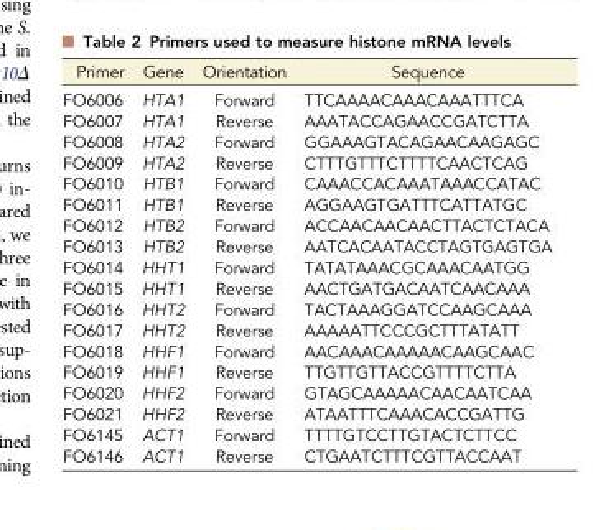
<table><thead><tr><td>Primer</td><td>Gene</td><td>Orientation</td><td>Sequence</td></tr></thead><tbody><tr><td>FO6006</td><td>HTA1</td><td>Forward</td><td>TTCAAAACAAACAAATTTCA</td></tr><tr><td>FO6007</td><td>HTA1</td><td>Reverse</td><td>AAATACCAGAACCGATCTTA</td></tr><tr><td>FO6008</td><td>HTA2</td><td>Forward</td><td>GGAAAGTACAGAACAAGAGC</td></tr><tr><td>FO6009</td><td>HTA2</td><td>Reverse</td><td>CTTTGTTTCTTTTCAACTCAG</td></tr><tr><td>FO6010</td><td>HTB1</td><td>Forward</td><td>CAAACCACAAATAAACCATAC</td></tr><tr><td>FO6011</td><td>HTB1</td><td>Reverse</td><td>AGGAAGTGATTTCATTATGC</td></tr><tr><td>FO6012</td><td>HTB2</td><td>Forward</td><td>ACCAACAACAACTTACTCTACA</td></tr><tr><td>FO6013</td><td>HTB2</td><td>Reverse</td><td>AATCACAATACCTAGTGAGTGA</td></tr><tr><td>FO6014</td><td>HHT1</td><td>Forward</td><td>TATATAAACGCAAACAATGG</td></tr><tr><td>FO6015</td><td>HHT1</td><td>Reverse</td><td>AACTGATGACAATCAACAAA</td></tr><tr><td>FO6016</td><td>HHT2</td><td>Forward</td><td>TACTAAAGGATCCAAGCAAA</td></tr><tr><td>FO6017</td><td>HHT2</td><td>Reverse</td><td>AAAAATTCCCGCTTTATATT</td></tr><tr><td>FO6018</td><td>HHF1</td><td>Forward</td><td>AACAAACAAAAACAAGCAAC</td></tr><tr><td>FO6019</td><td>HHF1</td><td>Reverse</td><td>TTGTTGTTACCGTTTTCTTA</td></tr><tr><td>FO6020</td><td>HHF2</td><td>Forward</td><td>GTAGCAAAAACAACAATCAA</td></tr><tr><td>FO6021</td><td>HHF2</td><td>Reverse</td><td>ATAATTTCAAACACCGATTG</td></tr><tr><td>FO6145</td><td>ACT1</td><td>Forward</td><td>TTTTGTCCTTGTACTCTTCC</td></tr><tr><td>FO6146</td><td>ACT1</td><td>Reverse</td><td>CTGAATCTTTCGTTACCAAT</td></tr></tbody></table>